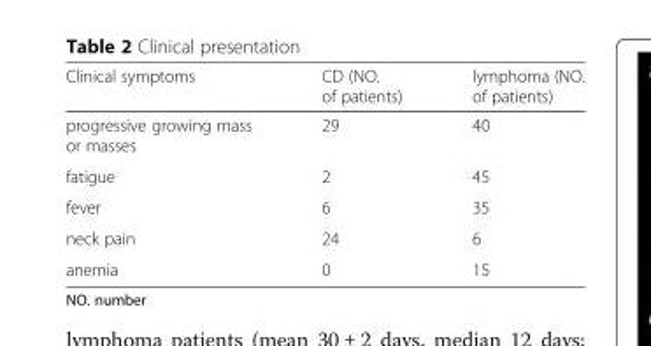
<table><thead><tr><td>Clinical symptoms</td><td>CD (NO. of patients)</td><td>lymphoma (NO. of patients)</td></tr></thead><tbody><tr><td>progressive growing mass or masses</td><td>29</td><td>40</td></tr><tr><td>fatigue</td><td>2</td><td>45</td></tr><tr><td>fever</td><td>6</td><td>35</td></tr><tr><td>neck pain</td><td>24</td><td>6</td></tr><tr><td>anemia</td><td>0</td><td>15</td></tr></tbody></table>